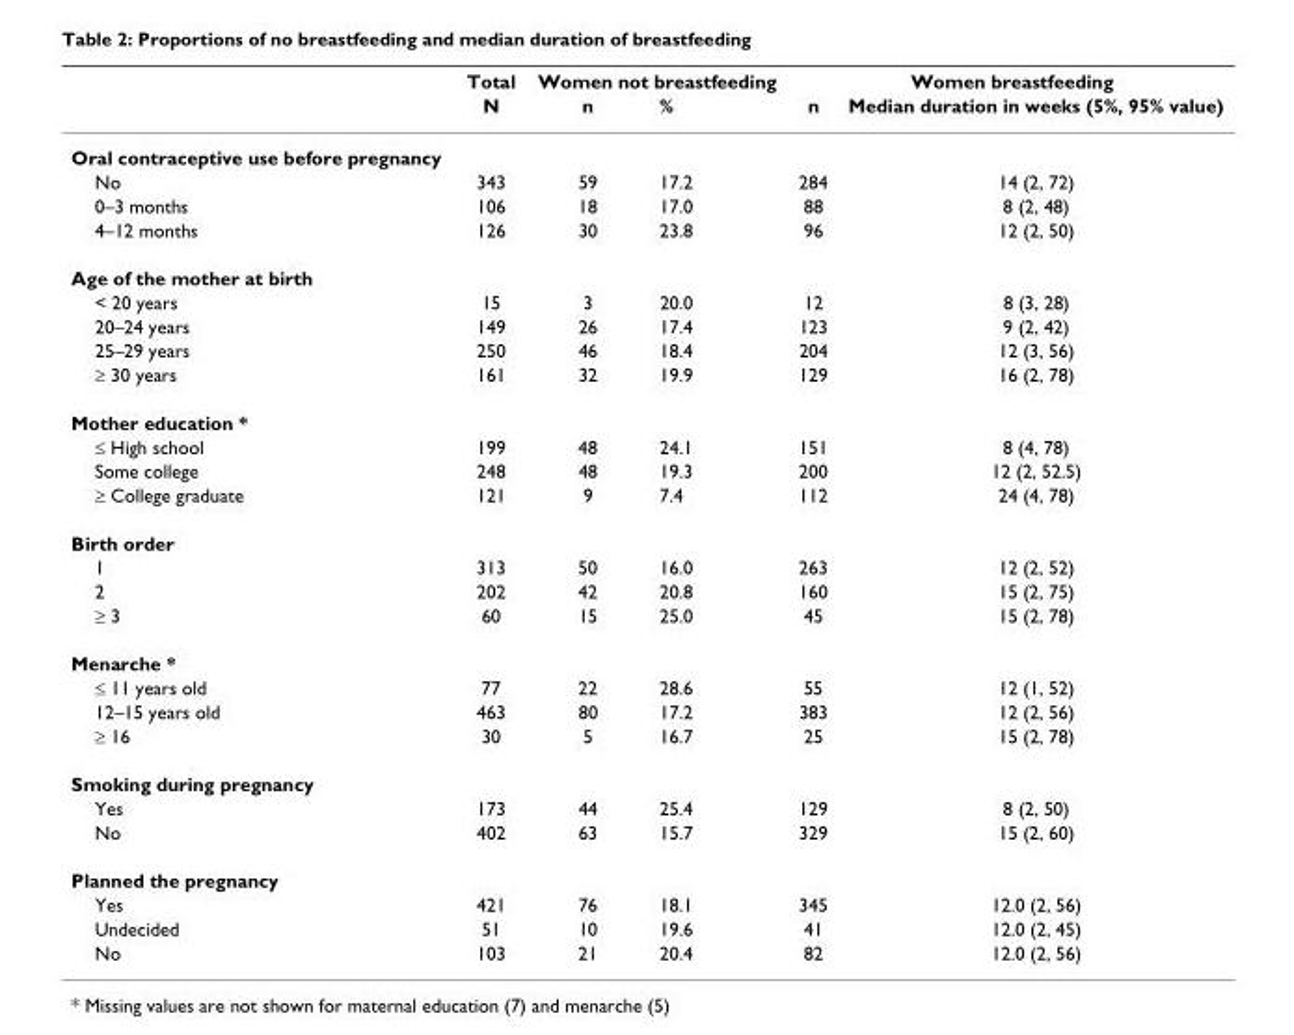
<table><thead><tr><td rowspan="2"></td><td rowspan="2">Total N</td><td colspan="2">Women not breastfeeding</td><td colspan="2">Women breastfeeding</td></tr><tr><td>n</td><td>%</td><td>n</td><td>Median duration in weeks (5%, 95% value)</td></tr></thead><tbody><tr><td colspan="6">Oral contraceptive use before pregnancy</td></tr><tr><td>No</td><td>343</td><td>59</td><td>17.2</td><td>284</td><td>14 (2, 72)</td></tr><tr><td>0–3 months</td><td>106</td><td>18</td><td>17.0</td><td>88</td><td>8 (2, 48)</td></tr><tr><td>4–12 months</td><td>126</td><td>30</td><td>23.8</td><td>96</td><td>12 (2, 50)</td></tr><tr><td colspan="6">Age of the mother at birth</td></tr><tr><td>&lt; 20 years</td><td>15</td><td>3</td><td>20.0</td><td>12</td><td>8 (3, 28)</td></tr><tr><td>20–24 years</td><td>149</td><td>26</td><td>17.4</td><td>123</td><td>9 (2, 42)</td></tr><tr><td>25–29 years</td><td>250</td><td>46</td><td>18.4</td><td>204</td><td>12 (3, 56)</td></tr><tr><td>≥ 30 years</td><td>161</td><td>32</td><td>19.9</td><td>129</td><td>16 (2, 78)</td></tr><tr><td colspan="6">Mother education *</td></tr><tr><td>≤ High school</td><td>199</td><td>48</td><td>24.1</td><td>151</td><td>8 (4, 78)</td></tr><tr><td>Some college</td><td>248</td><td>48</td><td>19.3</td><td>200</td><td>12 (2, 52.5)</td></tr><tr><td>≥ College graduate</td><td>121</td><td>9</td><td>7.4</td><td>112</td><td>24 (4, 78)</td></tr><tr><td colspan="6">Birth order</td></tr><tr><td>1</td><td>313</td><td>50</td><td>16.0</td><td>263</td><td>12 (2, 52)</td></tr><tr><td>2</td><td>202</td><td>42</td><td>20.8</td><td>160</td><td>15 (2, 75)</td></tr><tr><td>≥ 3</td><td>60</td><td>15</td><td>25.0</td><td>45</td><td>15 (2, 78)</td></tr><tr><td colspan="6">Menarche *</td></tr><tr><td>≤ 11 years old</td><td>77</td><td>22</td><td>28.6</td><td>55</td><td>12 (1, 52)</td></tr><tr><td>12–15 years old</td><td>463</td><td>80</td><td>17.2</td><td>383</td><td>12 (2, 56)</td></tr><tr><td>≥ 16</td><td>30</td><td>5</td><td>16.7</td><td>25</td><td>15 (2, 78)</td></tr><tr><td colspan="6">Smoking during pregnancy</td></tr><tr><td>Yes</td><td>173</td><td>44</td><td>25.4</td><td>129</td><td>8 (2, 50)</td></tr><tr><td>No</td><td>402</td><td>63</td><td>15.7</td><td>329</td><td>15 (2, 60)</td></tr><tr><td colspan="6">Planned the pregnancy</td></tr><tr><td>Yes</td><td>421</td><td>76</td><td>18.1</td><td>345</td><td>12.0 (2, 56)</td></tr><tr><td>Undecided</td><td>51</td><td>10</td><td>19.6</td><td>41</td><td>12.0 (2, 45)</td></tr><tr><td>No</td><td>103</td><td>21</td><td>20.4</td><td>82</td><td>12.0 (2, 56)</td></tr></tbody></table>